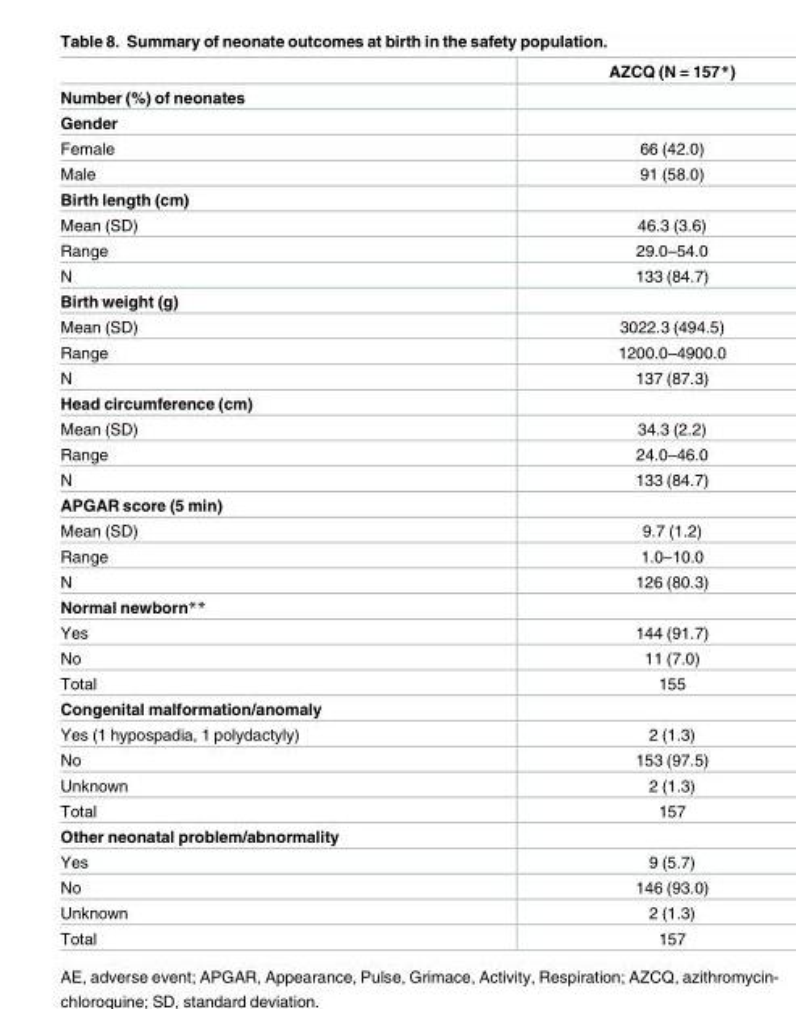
<table><thead><tr><td></td><td>AZCQ (N = 157*)</td></tr></thead><tbody><tr><td colspan="2">Number (%) of neonates</td></tr><tr><td colspan="2">Gender</td></tr><tr><td>Female</td><td>66 (42.0)</td></tr><tr><td>Male</td><td>91 (58.0)</td></tr><tr><td colspan="2">Birth length (cm)</td></tr><tr><td>Mean (SD)</td><td>46.3 (3.6)</td></tr><tr><td>Range</td><td>29.0–54.0</td></tr><tr><td>N</td><td>133 (84.7)</td></tr><tr><td colspan="2">Birth weight (g)</td></tr><tr><td>Mean (SD)</td><td>3022.3 (494.5)</td></tr><tr><td>Range</td><td>1200.0–4900.0</td></tr><tr><td>N</td><td>137 (87.3)</td></tr><tr><td colspan="2">Head circumference (cm)</td></tr><tr><td>Mean (SD)</td><td>34.3 (2.2)</td></tr><tr><td>Range</td><td>24.0–46.0</td></tr><tr><td>N</td><td>133 (84.7)</td></tr><tr><td colspan="2">APGAR score (5 min)</td></tr><tr><td>Mean (SD)</td><td>9.7 (1.2)</td></tr><tr><td>Range</td><td>1.0–10.0</td></tr><tr><td>N</td><td>126 (80.3)</td></tr><tr><td colspan="2">Normal newborn**</td></tr><tr><td>Yes</td><td>144 (91.7)</td></tr><tr><td>No</td><td>11 (7.0)</td></tr><tr><td>Total</td><td>155</td></tr><tr><td colspan="2">Congenital malformation/anomaly</td></tr><tr><td>Yes (1 hypospadia, 1 polydactyly)</td><td>2 (1.3)</td></tr><tr><td>No</td><td>153 (97.5)</td></tr><tr><td>Unknown</td><td>2 (1.3)</td></tr><tr><td>Total</td><td>157</td></tr><tr><td colspan="2">Other neonatal problem/abnormality</td></tr><tr><td>Yes</td><td>9 (5.7)</td></tr><tr><td>No</td><td>146 (93.0)</td></tr><tr><td>Unknown</td><td>2 (1.3)</td></tr><tr><td>Total</td><td>157</td></tr></tbody></table>